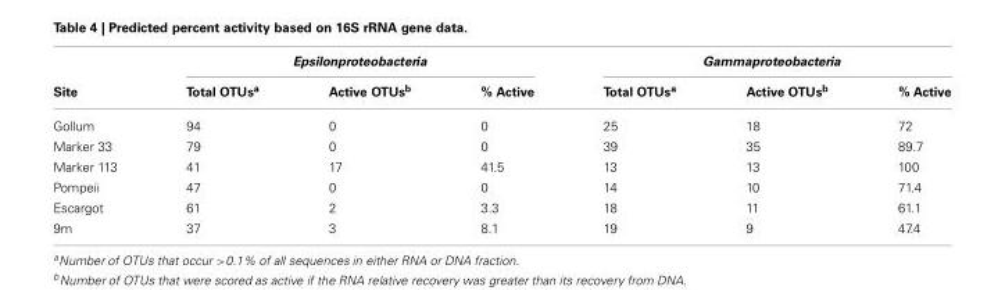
<table><thead><tr><td rowspan="2">Site</td><td colspan="3">Epsilonproteobacteria</td><td colspan="3">Gammaproteobacteria</td></tr><tr><td>Total OTUs<sup>a</sup></td><td>Active OTUs<sup>b</sup></td><td>% Active</td><td>Total OTUs<sup>a</sup></td><td>Active OTUs<sup>b</sup></td><td>% Active</td></tr></thead><tbody><tr><td>Gollum</td><td>94</td><td>0</td><td>0</td><td>25</td><td>18</td><td>72</td></tr><tr><td>Marker 33</td><td>79</td><td>0</td><td>0</td><td>39</td><td>35</td><td>89.7</td></tr><tr><td>Marker 113</td><td>41</td><td>17</td><td>41.5</td><td>13</td><td>13</td><td>100</td></tr><tr><td>Pompeii</td><td>47</td><td>0</td><td>0</td><td>14</td><td>10</td><td>71.4</td></tr><tr><td>Escargot</td><td>61</td><td>2</td><td>3.3</td><td>18</td><td>11</td><td>61.1</td></tr><tr><td>9m</td><td>37</td><td>3</td><td>8.1</td><td>19</td><td>9</td><td>47.4</td></tr></tbody></table>